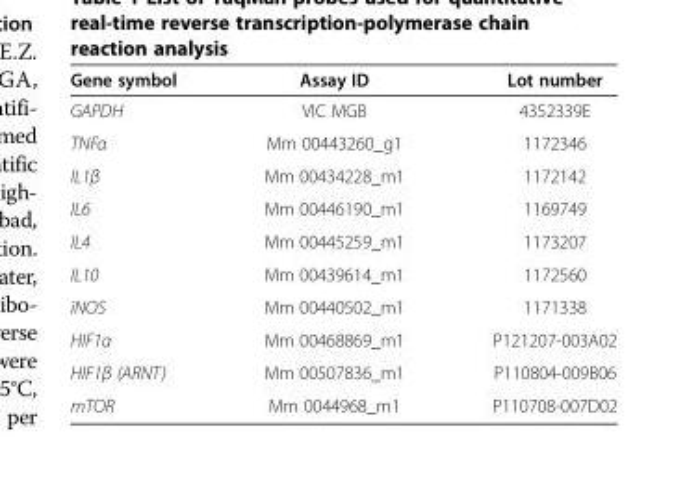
<table><thead><tr><td>Gene symbol</td><td>Assay ID</td><td>Lot number</td></tr></thead><tbody><tr><td>GAPDH</td><td>VIC MGB</td><td>4352339E</td></tr><tr><td>TNFα</td><td>Mm 00443260_g1</td><td>1172346</td></tr><tr><td>IL1β</td><td>Mm 00434228_m1</td><td>1172142</td></tr><tr><td>IL6</td><td>Mm 00446190_m1</td><td>1169749</td></tr><tr><td>IL4</td><td>Mm 00445259_m1</td><td>1173207</td></tr><tr><td>IL10</td><td>Mm 00439614_m1</td><td>1172560</td></tr><tr><td>iNOS</td><td>Mm 00440502_m1</td><td>1171338</td></tr><tr><td>HIF1α</td><td>Mm 00468869_m1</td><td>P121207-003A02</td></tr><tr><td>HIF1β (ARNT)</td><td>Mm 00507836_m1</td><td>P110804-009B06</td></tr><tr><td>mTOR</td><td>Mm 0044968_m1</td><td>P110708-007D02</td></tr></tbody></table>